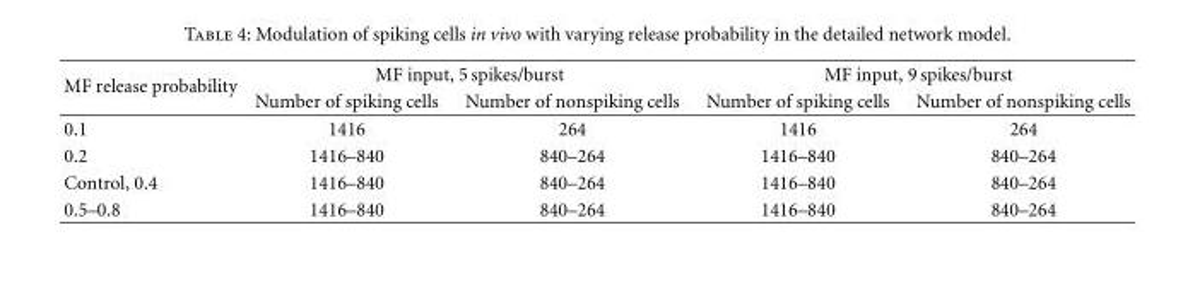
<table><thead><tr><td rowspan="2">MF release probability</td><td colspan="2">MF input, 5 spikes/burst</td><td colspan="2">MF input, 9 spikes/burst</td></tr><tr><td>Number of spiking cells</td><td>Number of nonspiking cells</td><td>Number of spiking cells</td><td>Number of nonspiking cells</td></tr></thead><tbody><tr><td>0.1</td><td>1416</td><td>264</td><td>1416</td><td>264</td></tr><tr><td>0.2</td><td>1416–840</td><td>840–264</td><td>1416–840</td><td>840–264</td></tr><tr><td>Control, 0.4</td><td>1416–840</td><td>840–264</td><td>1416–840</td><td>840–264</td></tr><tr><td>0.5–0.8</td><td>1416–840</td><td>840–264</td><td>1416–840</td><td>840–264</td></tr></tbody></table>